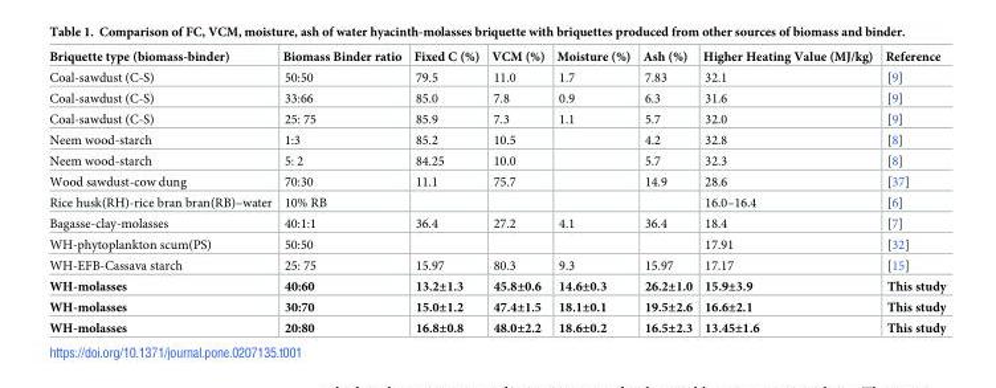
<table><thead><tr><td>Briquette type (biomass-binder)</td><td>Biomass Binder ratio</td><td>Fixed C (%)</td><td>VCM (%)</td><td>Moisture (%)</td><td>Ash (%)</td><td>Higher Heating Value (MJ/kg)</td><td>Reference</td></tr></thead><tbody><tr><td>Coal-sawdust (C-S)</td><td>50:50</td><td>79.5</td><td>11.0</td><td>1.7</td><td>7.83</td><td>32.1</td><td>[9]</td></tr><tr><td>Coal-sawdust (C-S)</td><td>33:66</td><td>85.0</td><td>7.8</td><td>0.9</td><td>6.3</td><td>31.6</td><td>[9]</td></tr><tr><td>Coal-sawdust (C-S)</td><td>25: 75</td><td>85.9</td><td>7.3</td><td>1.1</td><td>5.7</td><td>32.0</td><td>[9]</td></tr><tr><td>Neem wood-starch</td><td>1:3</td><td>85.2</td><td>10.5</td><td></td><td>4.2</td><td>32.8</td><td>[8]</td></tr><tr><td>Neem wood-starch</td><td>5: 2</td><td>84.25</td><td>10.0</td><td></td><td>5.7</td><td>32.3</td><td>[8]</td></tr><tr><td>Wood sawdust-cow dung</td><td>70:30</td><td>11.1</td><td>75.7</td><td></td><td>14.9</td><td>28.6</td><td>[37]</td></tr><tr><td>Rice husk(RH)-rice bran bran(RB)–water</td><td>10% RB</td><td></td><td></td><td></td><td></td><td>16.0–16.4</td><td>[6]</td></tr><tr><td>Bagasse-clay-molasses</td><td>40:1:1</td><td>36.4</td><td>27.2</td><td>4.1</td><td>36.4</td><td>18.4</td><td>[7]</td></tr><tr><td>WH-phytoplankton scum(PS)</td><td>50:50</td><td></td><td></td><td></td><td></td><td>17.91</td><td>[32]</td></tr><tr><td>WH-EFB-Cassava starch</td><td>25: 75</td><td>15.97</td><td>80.3</td><td>9.3</td><td>15.97</td><td>17.17</td><td>[15]</td></tr><tr><td>WH-molasses</td><td>40:60</td><td>13.2±1.3</td><td>45.8±0.6</td><td>14.6±0.3</td><td>26.2±1.0</td><td>15.9±3.9</td><td>This study</td></tr><tr><td>WH-molasses</td><td>30:70</td><td>15.0±1.2</td><td>47.4±1.5</td><td>18.1±0.1</td><td>19.5±2.6</td><td>16.6±2.1</td><td>This study</td></tr><tr><td>WH-molasses</td><td>20:80</td><td>16.8±0.8</td><td>48.0±2.2</td><td>18.6±0.2</td><td>16.5±2.3</td><td>13.45±1.6</td><td>This study</td></tr></tbody></table>